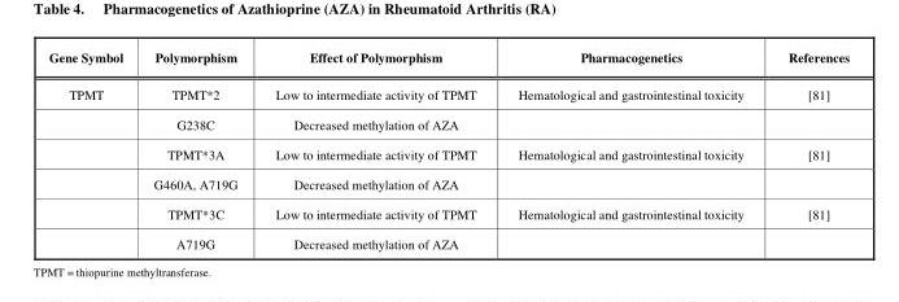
<table><thead><tr><td>Gene Symbol</td><td>Polymorphism</td><td>Effect of Polymorphism</td><td>Pharmacogenetics</td><td>References</td></tr></thead><tbody><tr><td rowspan="6">TPMT</td><td>TPMT*2</td><td>Low to intermediate activity of TPMT</td><td>Hematological and gastrointestinal toxicity</td><td>[81]</td></tr><tr><td>G238C</td><td>Decreased methylation of AZA</td><td></td><td></td></tr><tr><td>TPMT*3A</td><td>Low to intermediate activity of TPMT</td><td>Hematological and gastrointestinal toxicity</td><td>[81]</td></tr><tr><td>G460A, A719G</td><td>Decreased methylation of AZA</td><td></td><td></td></tr><tr><td>TPMT*3C</td><td>Low to intermediate activity of TPMT</td><td>Hematological and gastrointestinal toxicity</td><td>[81]</td></tr><tr><td>A719G</td><td>Decreased methylation of AZA</td><td></td><td></td></tr></tbody></table>